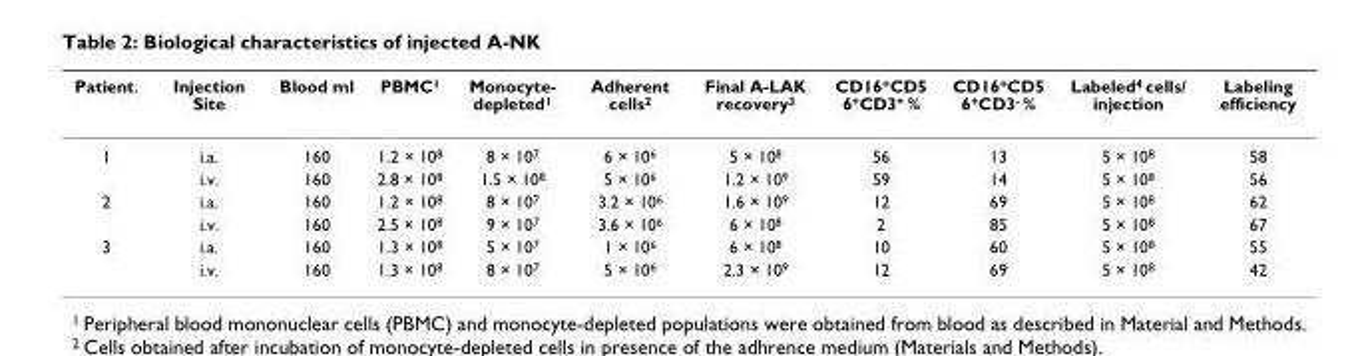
<table><thead><tr><td>Patient.</td><td>Injection Site</td><td>Blood ml</td><td>PBMC<sup>1</sup></td><td>Monocyte- depleted<sup>1</sup></td><td>Adherent cells<sup>2</sup></td><td>Final A-LAK recovery<sup>3</sup></td><td>CD16<sup>+</sup>CD5 6<sup>+</sup>CD3<sup>+</sup> %</td><td>CD16<sup>+</sup>CD5 6<sup>+</sup>CD3<sup>-</sup> %</td><td>Labeled<sup>4</sup> cells/ injection</td><td>Labeling efficiency</td></tr></thead><tbody><tr><td rowspan="2">1</td><td>i.a.</td><td>160</td><td>1.2 × 10<sup>8</sup></td><td>8 × 10<sup>7</sup></td><td>6 × 10<sup>6</sup></td><td>5 × 10<sup>8</sup></td><td>56</td><td>13</td><td>5 × 10<sup>8</sup></td><td>58</td></tr><tr><td>i.v.</td><td>160</td><td>2.8 × 10<sup>8</sup></td><td>1.5 × 10<sup>8</sup></td><td>5 × 10<sup>6</sup></td><td>1.2 × 10<sup>9</sup></td><td>59</td><td>14</td><td>5 × 10<sup>8</sup></td><td>56</td></tr><tr><td rowspan="2">2</td><td>i.a.</td><td>160</td><td>1.2 × 10<sup>8</sup></td><td>8 × 10<sup>7</sup></td><td>3.2 × 10<sup>6</sup></td><td>1.6 × 10<sup>9</sup></td><td>12</td><td>69</td><td>5 × 10<sup>8</sup></td><td>62</td></tr><tr><td>i.v.</td><td>160</td><td>2.5 × 10<sup>8</sup></td><td>9 × 10<sup>7</sup></td><td>3.6 × 10<sup>6</sup></td><td>6 × 10<sup>8</sup></td><td>2</td><td>85</td><td>5 × 10<sup>8</sup></td><td>67</td></tr><tr><td rowspan="2">3</td><td>i.a.</td><td>160</td><td>1.3 × 10<sup>8</sup></td><td>5 × 10<sup>7</sup></td><td>1 × 10<sup>6</sup></td><td>6 × 10<sup>8</sup></td><td>10</td><td>60</td><td>5 × 10<sup>8</sup></td><td>55</td></tr><tr><td>i.v.</td><td>160</td><td>1.3 × 10<sup>8</sup></td><td>8 × 10<sup>7</sup></td><td>5 × 10<sup>6</sup></td><td>2.3 × 10<sup>9</sup></td><td>12</td><td>69</td><td>5 × 10<sup>8</sup></td><td>42</td></tr></tbody></table>